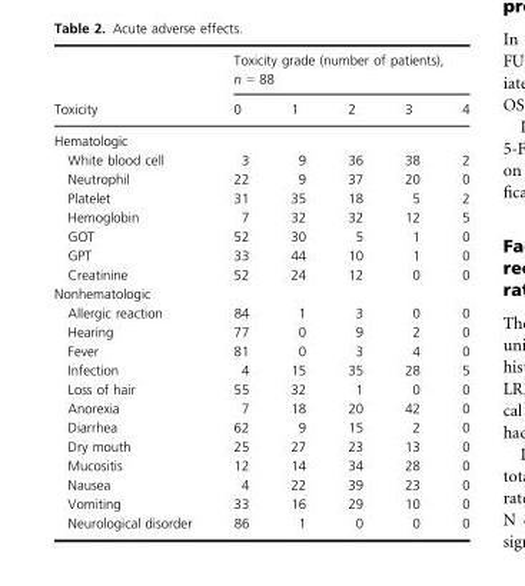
<table><thead><tr><td rowspan="2">Toxicity</td><td colspan="5">Toxicity grade (number of patients), n = 88</td></tr><tr><td>0</td><td>1</td><td>2</td><td>3</td><td>4</td></tr></thead><tbody><tr><td colspan="6">Hematologic</td></tr><tr><td>White blood cell</td><td>3</td><td>9</td><td>36</td><td>38</td><td>2</td></tr><tr><td>Neutrophil</td><td>22</td><td>9</td><td>37</td><td>20</td><td>0</td></tr><tr><td>Platelet</td><td>31</td><td>35</td><td>18</td><td>5</td><td>2</td></tr><tr><td>Hemoglobin</td><td>7</td><td>32</td><td>32</td><td>12</td><td>5</td></tr><tr><td>GOT</td><td>52</td><td>30</td><td>5</td><td>1</td><td>0</td></tr><tr><td>GPT</td><td>33</td><td>44</td><td>10</td><td>1</td><td>0</td></tr><tr><td>Creatinine</td><td>52</td><td>24</td><td>12</td><td>0</td><td>0</td></tr><tr><td colspan="6">Nonhematologic</td></tr><tr><td>Allergic reaction</td><td>84</td><td>1</td><td>3</td><td>0</td><td>0</td></tr><tr><td>Hearing</td><td>77</td><td>0</td><td>9</td><td>2</td><td>0</td></tr><tr><td>Fever</td><td>81</td><td>0</td><td>3</td><td>4</td><td>0</td></tr><tr><td>Infection</td><td>4</td><td>15</td><td>35</td><td>28</td><td>5</td></tr><tr><td>Loss of hair</td><td>55</td><td>32</td><td>1</td><td>0</td><td>0</td></tr><tr><td>Anorexia</td><td>7</td><td>18</td><td>20</td><td>42</td><td>0</td></tr><tr><td>Diarrhea</td><td>62</td><td>9</td><td>15</td><td>2</td><td>0</td></tr><tr><td>Dry mouth</td><td>25</td><td>27</td><td>23</td><td>13</td><td>0</td></tr><tr><td>Mucositis</td><td>12</td><td>14</td><td>34</td><td>28</td><td>0</td></tr><tr><td>Nausea</td><td>4</td><td>22</td><td>39</td><td>23</td><td>0</td></tr><tr><td>Vomiting</td><td>33</td><td>16</td><td>29</td><td>10</td><td>0</td></tr><tr><td>Neurological disorder</td><td>86</td><td>1</td><td>0</td><td>0</td><td>0</td></tr></tbody></table>